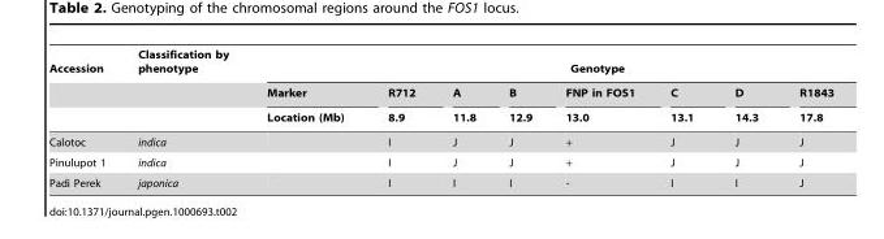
<table><thead><tr><td rowspan="3">Accession</td><td rowspan="3">Classification by phenotype</td><td colspan="8">Genotype</td></tr><tr><td rowspan="2">Marker Location (Mb)</td><td rowspan="2">R712 8.9</td><td rowspan="2">A 11.8</td><td rowspan="2">B 12.9</td><td rowspan="2">FNP in FOS1 13.0</td><td rowspan="2">C 13.1</td><td rowspan="2">D 14.3</td><td rowspan="2">R1843 17.8</td></tr><tr></tr></thead><tbody><tr><td>Calotoc</td><td>indica</td><td></td><td>I</td><td>J</td><td>J</td><td>+</td><td>J</td><td>J</td><td>J</td></tr><tr><td>Pinulupot 1</td><td>indica</td><td></td><td>I</td><td>J</td><td>J</td><td>+</td><td>J</td><td>J</td><td>J</td></tr><tr><td>Padi Perek</td><td>japonica</td><td></td><td>I</td><td>I</td><td>I</td><td>-</td><td>I</td><td>I</td><td>J</td></tr></tbody></table>